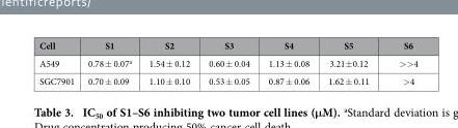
<table><thead><tr><td>Cell</td><td>S1</td><td>S2</td><td>S3</td><td>S4</td><td>S5</td><td>S6</td></tr></thead><tbody><tr><td>A549</td><td>0.78 ± 0.07<sup>a</sup></td><td>1.54 ± 0.12</td><td>0.60 ± 0.04</td><td>1.13 ± 0.08</td><td>3.21± 0.12</td><td>&gt;&gt;4</td></tr><tr><td>SGC7901</td><td>0.70 ± 0.09</td><td>1.10 ± 0.10</td><td>0.53 ± 0.05</td><td>0.87 ± 0.06</td><td>1.62 ± 0.11</td><td>&gt;4</td></tr></tbody></table>